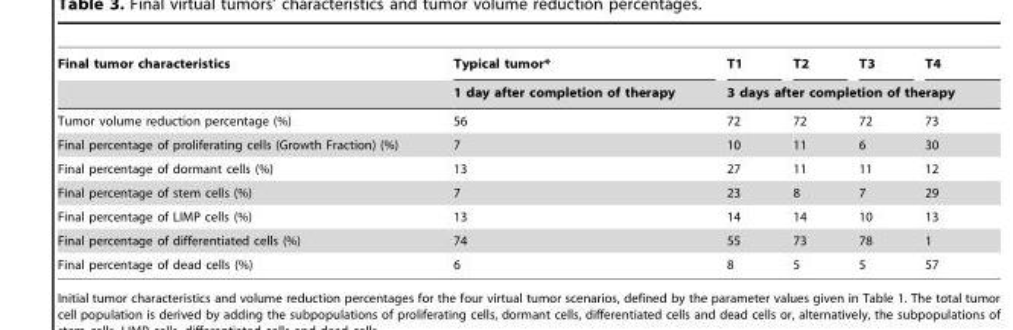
<table><thead><tr><td rowspan="2">Final tumor characteristics</td><td rowspan="2">Typical tumor* 1 day after completion of therapy</td><td>T1</td><td>T2</td><td>T3</td><td>T4</td></tr><tr><td colspan="4">3 days after completion of therapy</td></tr></thead><tbody><tr><td>Tumor volume reduction percentage (%)</td><td>56</td><td>72</td><td>72</td><td>72</td><td>73</td></tr><tr><td>Final percentage of proliferating cells (Growth Fraction) (%)</td><td>7</td><td>10</td><td>11</td><td>6</td><td>30</td></tr><tr><td>Final percentage of dormant cells (%)</td><td>13</td><td>27</td><td>11</td><td>11</td><td>12</td></tr><tr><td>Final percentage of stem cells (%)</td><td>7</td><td>23</td><td>8</td><td>7</td><td>29</td></tr><tr><td>Final percentage of LIMP cells (%)</td><td>13</td><td>14</td><td>14</td><td>10</td><td>13</td></tr><tr><td>Final percentage of differentiated cells (%)</td><td>74</td><td>55</td><td>73</td><td>78</td><td>1</td></tr><tr><td>Final percentage of dead cells (%)</td><td>6</td><td>8</td><td>5</td><td>5</td><td>57</td></tr></tbody></table>